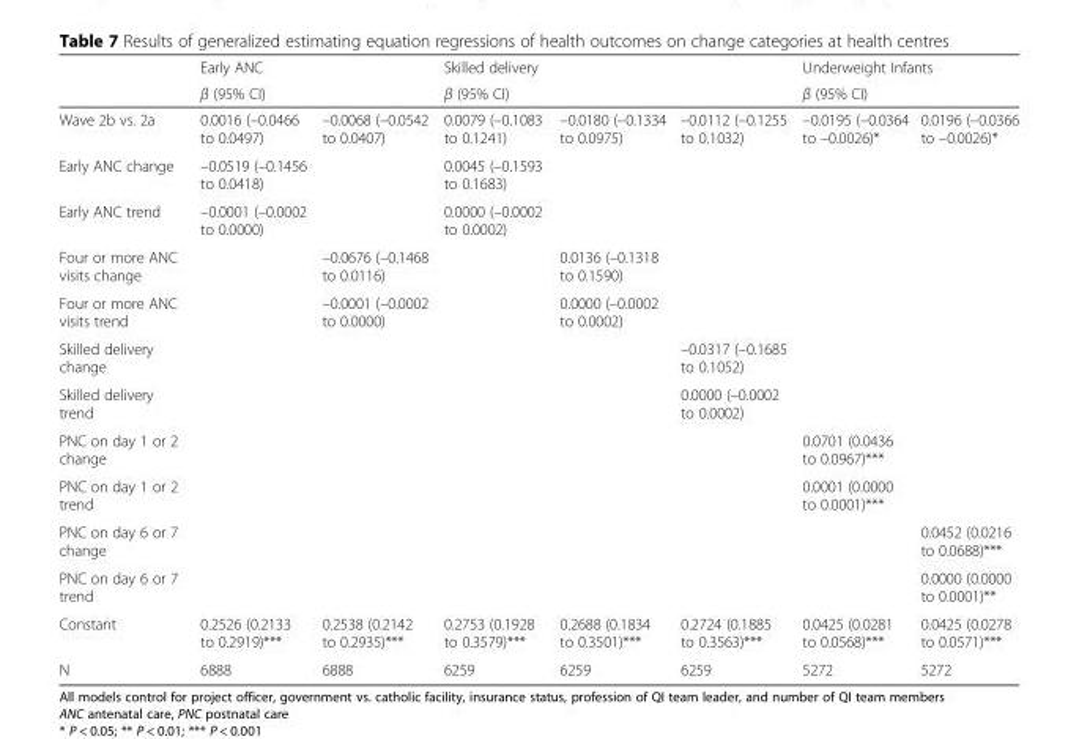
<table><thead><tr><td rowspan="3">Wave 2b vs. 2a</td><td rowspan="2" colspan="2">Early ANC β (95% CI)</td><td rowspan="2" colspan="3">Skilled delivery β (95% CI)</td><td rowspan="2" colspan="2">Underweight Infants β (95% CI)</td></tr><tr></tr><tr><td>0.0016 (–0.0466 to 0.0497)</td><td>–0.0068 (–0.0542 to 0.0407)</td><td>0.0079 (–0.1083 to 0.1241)</td><td>–0.0180 (–0.1334 to 0.0975)</td><td>–0.0112 (–0.1255 to 0.1032)</td><td>–0.0195 (–0.0364 to –0.0026)*</td><td>0.0196 (–0.0366 to –0.0026)*</td></tr></thead><tbody><tr><td>Early ANC change</td><td>–0.0519 (–0.1456 to 0.0418)</td><td></td><td>0.0045 (–0.1593 to 0.1683)</td><td></td><td></td><td></td><td></td></tr><tr><td>Early ANC trend</td><td>–0.0001 (–0.0002 to 0.0000)</td><td></td><td>0.0000 (–0.0002 to 0.0002)</td><td></td><td></td><td></td><td></td></tr><tr><td>Four or more ANC visits change</td><td></td><td>–0.0676 (–0.1468 to 0.0116)</td><td></td><td>0.0136 (–0.1318 to 0.1590)</td><td></td><td></td><td></td></tr><tr><td>Four or more ANC visits trend</td><td></td><td>–0.0001 (–0.0002 to 0.0000)</td><td></td><td>0.0000 (–0.0002 to 0.0002)</td><td></td><td></td><td></td></tr><tr><td>Skilled delivery change</td><td></td><td></td><td></td><td></td><td>–0.0317 (–0.1685 to 0.1052)</td><td></td><td></td></tr><tr><td>Skilled delivery trend</td><td></td><td></td><td></td><td></td><td>0.0000 (–0.0002 to 0.0002)</td><td></td><td></td></tr><tr><td>PNC on day 1 or 2 change</td><td></td><td></td><td></td><td></td><td></td><td>0.0701 (0.0436 to 0.0967)***</td><td></td></tr><tr><td>PNC on day 1 or 2 trend</td><td></td><td></td><td></td><td></td><td></td><td>0.0001 (0.0000 to 0.0001)***</td><td></td></tr><tr><td>PNC on day 6 or 7 change</td><td></td><td></td><td></td><td></td><td></td><td></td><td>0.0452 (0.0216 to 0.0688)***</td></tr><tr><td>PNC on day 6 or 7 trend</td><td></td><td></td><td></td><td></td><td></td><td></td><td>0.0000 (0.0000 to 0.0001)**</td></tr><tr><td>Constant</td><td>0.2526 (0.2133 to 0.2919)***</td><td>0.2538 (0.2142 to 0.2935)***</td><td>0.2753 (0.1928 to 0.3579)***</td><td>0.2688 (0.1834 to 0.3501)***</td><td>0.2724 (0.1885 to 0.3563)***</td><td>0.0425 (0.0281 to 0.0568)***</td><td>0.0425 (0.0278 to 0.0571)***</td></tr><tr><td>N</td><td>6888</td><td>6888</td><td>6259</td><td>6259</td><td>6259</td><td>5272</td><td>5272</td></tr></tbody></table>